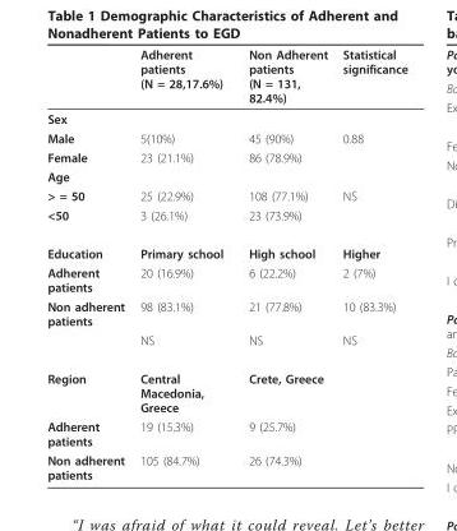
<table><thead><tr><td></td><td>Adherent patients (Ν = 28,17.6%)</td><td>Non Adherent patients (Ν = 131, 82.4%)</td><td>Statistical significance</td></tr></thead><tbody><tr><td colspan="4">Sex</td></tr><tr><td>Male</td><td>5(10%)</td><td>45 (90%)</td><td>0.88</td></tr><tr><td>Female</td><td>23 (21.1%)</td><td>86 (78.9%)</td><td></td></tr><tr><td colspan="4">Age</td></tr><tr><td>&gt; = 50</td><td>25 (22.9%)</td><td>108 (77.1%)</td><td>NS</td></tr><tr><td>&lt;50</td><td>3 (26.1%)</td><td>23 (73.9%)</td><td></td></tr><tr><td>Education</td><td>Primary school</td><td>High school</td><td>Higher</td></tr><tr><td>Adherent patients</td><td>20 (16.9%)</td><td>6 (22.2%)</td><td>2 (7%)</td></tr><tr><td rowspan="2">Non adherent patients</td><td>98 (83.1%)</td><td>21 (77.8%)</td><td>10 (83.3%)</td></tr><tr><td>NS</td><td>NS</td><td>NS</td></tr><tr><td>Region</td><td>Central Macedonia, Greece</td><td colspan="2">Crete, Greece</td></tr><tr><td>Adherent patients</td><td>19 (15.3%)</td><td colspan="2">9 (25.7%)</td></tr><tr><td>Non adherent patients</td><td>105 (84.7%)</td><td colspan="2">26 (74.3%)</td></tr></tbody></table>